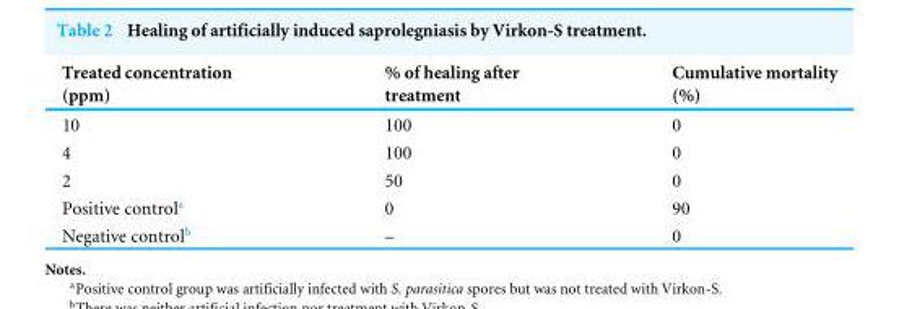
<table><thead><tr><td>Treated concentration (ppm)</td><td>% of healing after treatment</td><td>Cumulative mortality (%)</td></tr></thead><tbody><tr><td>10</td><td>100</td><td>0</td></tr><tr><td>4</td><td>100</td><td>0</td></tr><tr><td>2</td><td>50</td><td>0</td></tr><tr><td>Positive control<sup>a</sup></td><td>0</td><td>90</td></tr><tr><td>Negative control<sup>b</sup></td><td>–</td><td>0</td></tr></tbody></table>